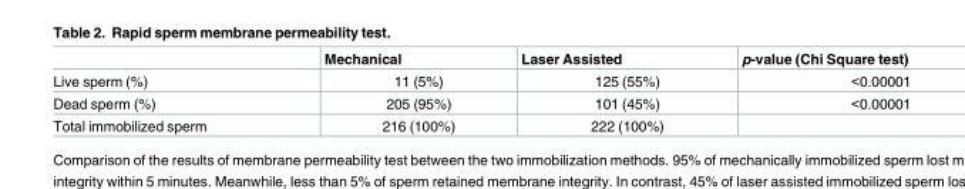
<table><thead><tr><td></td><td>Mechanical</td><td>Laser Assisted</td><td>p-value (Chi Square test)</td></tr></thead><tbody><tr><td>Live sperm (%)</td><td>11 (5%)</td><td>125 (55%)</td><td>&lt;0.00001</td></tr><tr><td>Dead sperm (%)</td><td>205 (95%)</td><td>101 (45%)</td><td>&lt;0.00001</td></tr><tr><td>Total immobilized sperm</td><td>216 (100%)</td><td>222 (100%)</td><td></td></tr></tbody></table>